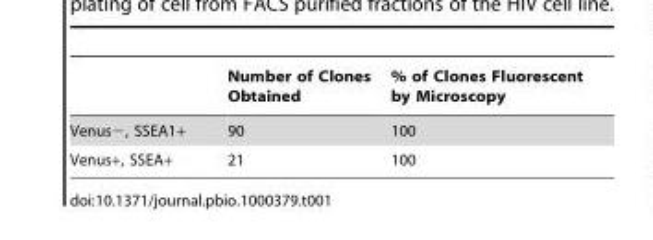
<table><thead><tr><td></td><td>Number of Clones Obtained</td><td>% of Clones Fluorescent by Microscopy</td></tr></thead><tbody><tr><td>Venus−, SSEA1+</td><td>90</td><td>100</td></tr><tr><td>Venus+, SSEA+</td><td>21</td><td>100</td></tr></tbody></table>